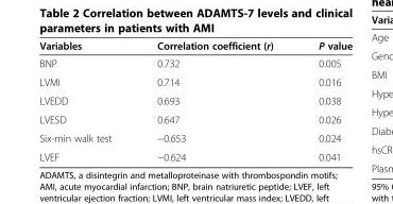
<table><thead><tr><td>Variables</td><td>Correlation coefficient (r)</td><td>P value</td></tr></thead><tbody><tr><td>BNP</td><td>0.732</td><td>0.005</td></tr><tr><td>LVMI</td><td>0.714</td><td>0.016</td></tr><tr><td>LVEDD</td><td>0.693</td><td>0.038</td></tr><tr><td>LVESD</td><td>0.647</td><td>0.026</td></tr><tr><td>Six-min walk test</td><td>−0.653</td><td>0.024</td></tr><tr><td>LVEF</td><td>−0.624</td><td>0.041</td></tr></tbody></table>